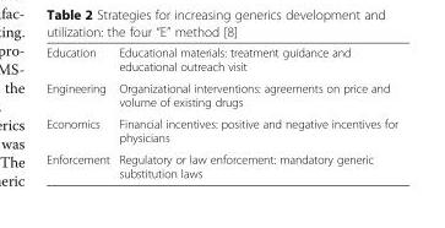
<table><tbody><tr><td>Education</td><td>Educational materials: treatment guidance and educational outreach visit</td></tr><tr><td>Engineering</td><td>Organizational interventions: agreements on price and volume of existing drugs</td></tr><tr><td>Economics</td><td>Financial incentives: positive and negative incentives for physicians</td></tr><tr><td>Enforcement</td><td>Regulatory or law enforcement: mandatory generic substitution laws</td></tr></tbody></table>